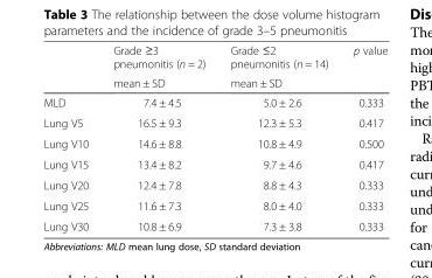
<table><thead><tr><td rowspan="2"></td><td rowspan="2">Grade ≥3 pneumonitis (n = 2) mean ± SD</td><td rowspan="2">Grade ≤2 pneumonitis (n = 14) mean ± SD</td><td rowspan="2">p value</td></tr><tr></tr></thead><tbody><tr><td>MLD</td><td>7.4 ± 4.5</td><td>5.0 ± 2.6</td><td>0.333</td></tr><tr><td>Lung V5</td><td>16.5 ± 9.3</td><td>12.3 ± 5.3</td><td>0.417</td></tr><tr><td>Lung V10</td><td>14.6 ± 8.8</td><td>10.8 ± 4.9</td><td>0.500</td></tr><tr><td>Lung V15</td><td>13.4 ± 8.2</td><td>9.7 ± 4.6</td><td>0.417</td></tr><tr><td>Lung V20</td><td>12.4 ± 7.8</td><td>8.8 ± 4.3</td><td>0.333</td></tr><tr><td>Lung V25</td><td>11.6 ± 7.3</td><td>8.0 ± 4.0</td><td>0.333</td></tr><tr><td>Lung V30</td><td>10.8 ± 6.9</td><td>7.3 ± 3.8</td><td>0.333</td></tr></tbody></table>